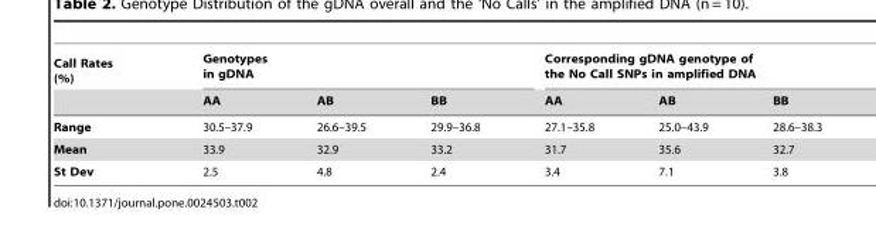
<table><thead><tr><td rowspan="2">Call Rates (%)</td><td colspan="3">Genotypes in gDNA</td><td colspan="3">Corresponding gDNA genotype of the No Call SNPs in amplified DNA</td></tr><tr><td>AA</td><td>AB</td><td>BB</td><td>AA</td><td>AB</td><td>BB</td></tr></thead><tbody><tr><td>Range</td><td>30.5–37.9</td><td>26.6–39.5</td><td>29.9–36.8</td><td>27.1–35.8</td><td>25.0–43.9</td><td>28.6–38.3</td></tr><tr><td>Mean</td><td>33.9</td><td>32.9</td><td>33.2</td><td>31.7</td><td>35.6</td><td>32.7</td></tr><tr><td>St Dev</td><td>2.5</td><td>4.8</td><td>2.4</td><td>3.4</td><td>7.1</td><td>3.8</td></tr></tbody></table>